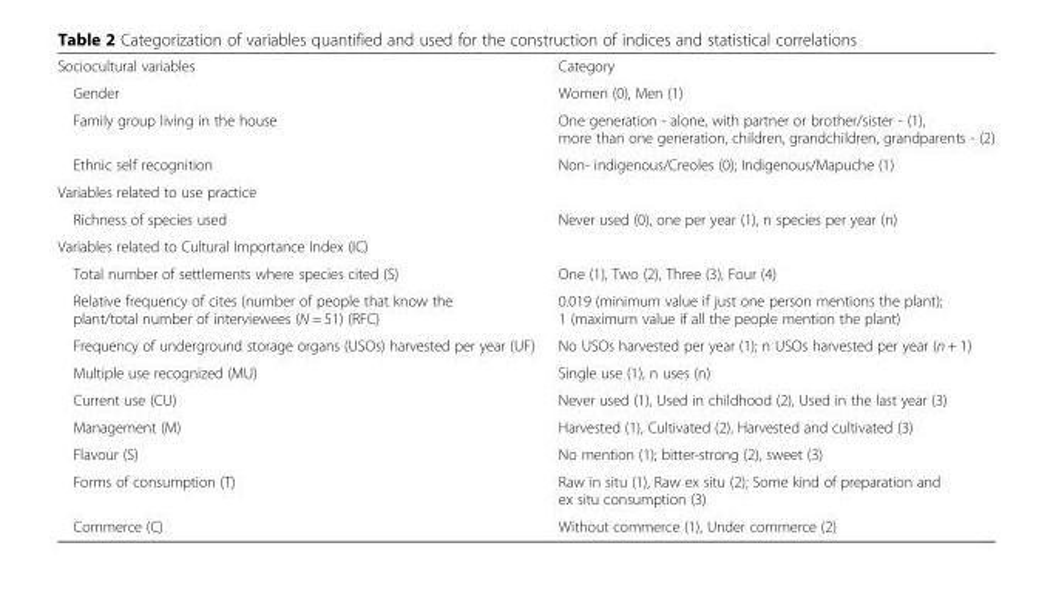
<table><tbody><tr><td>Sociocultural variables</td><td>Category</td></tr><tr><td>Gender</td><td>Women (0), Men (1)</td></tr><tr><td>Family group living in the house</td><td>One generation - alone, with partner or brother/sister - (1), more than one generation, children, grandchildren, grandparents - (2)</td></tr><tr><td>Ethnic self recognition</td><td>Non- indigenous/Creoles (0); Indigenous/Mapuche (1)</td></tr><tr><td colspan="2">Variables related to use practice</td></tr><tr><td>Richness of species used</td><td>Never used (0), one per year (1), n species per year (n)</td></tr><tr><td colspan="2">Variables related to Cultural Importance Index (IC)</td></tr><tr><td>Total number of settlements where species cited (S)</td><td>One (1), Two (2), Three (3), Four (4)</td></tr><tr><td>Relative frequency of cites (number of people that know the plant/total number of interviewees (N = 51) (RFC)</td><td>0.019 (minimum value if just one person mentions the plant); 1 (maximum value if all the people mention the plant)</td></tr><tr><td>Frequency of underground storage organs (USOs) harvested per year (UF)</td><td>No USOs harvested per year (1); n USOs harvested per year (n + 1)</td></tr><tr><td>Multiple use recognized (MU)</td><td>Single use (1), n uses (n)</td></tr><tr><td>Current use (CU)</td><td>Never used (1), Used in childhood (2), Used in the last year (3)</td></tr><tr><td>Management (M)</td><td>Harvested (1), Cultivated (2), Harvested and cultivated (3)</td></tr><tr><td>Flavour (S)</td><td>No mention (1); bitter-strong (2), sweet (3)</td></tr><tr><td>Forms of consumption (T)</td><td>Raw in situ (1), Raw ex situ (2); Some kind of preparation and ex situ consumption (3)</td></tr><tr><td>Commerce (C)</td><td>Without commerce (1), Under commerce (2)</td></tr></tbody></table>